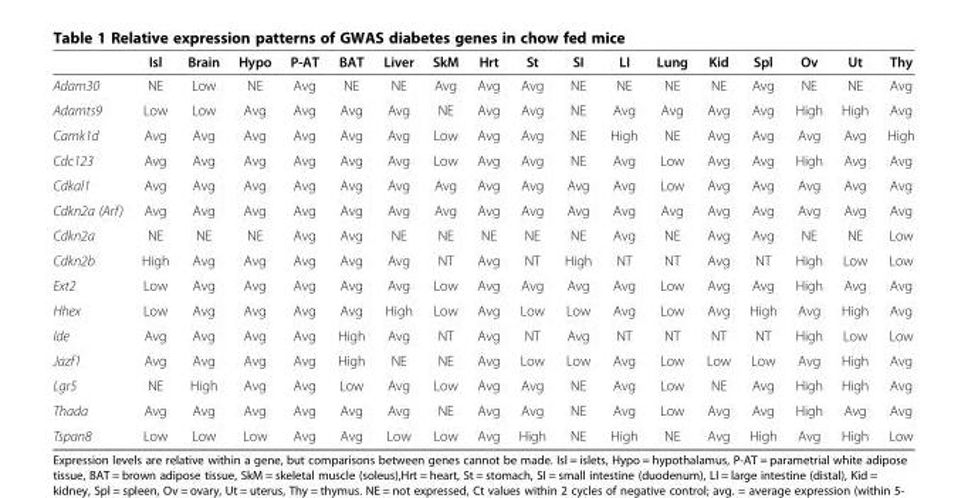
<table><thead><tr><td></td><td>Isl</td><td>Brain</td><td>Hypo</td><td>P-AT</td><td>BAT</td><td>Liver</td><td>SkM</td><td>Hrt</td><td>St</td><td>SI</td><td>LI</td><td>Lung</td><td>Kid</td><td>Spl</td><td>Ov</td><td>Ut</td><td>Thy</td></tr></thead><tbody><tr><td>Adam30</td><td>NE</td><td>Low</td><td>NE</td><td>Avg</td><td>NE</td><td>NE</td><td>Avg</td><td>Avg</td><td>Avg</td><td>NE</td><td>NE</td><td>NE</td><td>NE</td><td>Avg</td><td>NE</td><td>NE</td><td>Avg</td></tr><tr><td>Adamts9</td><td>Low</td><td>Low</td><td>Avg</td><td>Avg</td><td>Avg</td><td>Avg</td><td>NE</td><td>Avg</td><td>Avg</td><td>NE</td><td>Avg</td><td>Avg</td><td>Avg</td><td>Avg</td><td>High</td><td>High</td><td>Avg</td></tr><tr><td>Camk1d</td><td>Avg</td><td>Avg</td><td>Avg</td><td>Avg</td><td>Avg</td><td>Avg</td><td>Low</td><td>Avg</td><td>Avg</td><td>NE</td><td>High</td><td>NE</td><td>Avg</td><td>Avg</td><td>Avg</td><td>Avg</td><td>High</td></tr><tr><td>Cdc123</td><td>Avg</td><td>Avg</td><td>Avg</td><td>Avg</td><td>Avg</td><td>Avg</td><td>Low</td><td>Avg</td><td>Avg</td><td>NE</td><td>Avg</td><td>Low</td><td>Avg</td><td>Avg</td><td>High</td><td>Avg</td><td>Avg</td></tr><tr><td>Cdkal1</td><td>Avg</td><td>Avg</td><td>Avg</td><td>Avg</td><td>Avg</td><td>Avg</td><td>Avg</td><td>Avg</td><td>Avg</td><td>Avg</td><td>Avg</td><td>Low</td><td>Avg</td><td>Avg</td><td>Avg</td><td>Avg</td><td>Avg</td></tr><tr><td>Cdkn2a (Arf)</td><td>Avg</td><td>Avg</td><td>Avg</td><td>Avg</td><td>Avg</td><td>Avg</td><td>Avg</td><td>Avg</td><td>Avg</td><td>Avg</td><td>Avg</td><td>Avg</td><td>Avg</td><td>Avg</td><td>Avg</td><td>Avg</td><td>Avg</td></tr><tr><td>Cdkn2a</td><td>NE</td><td>NE</td><td>NE</td><td>Avg</td><td>Avg</td><td>NE</td><td>NE</td><td>NE</td><td>NE</td><td>NE</td><td>Avg</td><td>NE</td><td>Avg</td><td>Avg</td><td>NE</td><td>NE</td><td>Low</td></tr><tr><td>Cdkn2b</td><td>High</td><td>Avg</td><td>Avg</td><td>Avg</td><td>Avg</td><td>Avg</td><td>NT</td><td>Avg</td><td>NT</td><td>High</td><td>NT</td><td>NT</td><td>Avg</td><td>NT</td><td>High</td><td>Low</td><td>Low</td></tr><tr><td>Ext2</td><td>Low</td><td>Avg</td><td>Avg</td><td>Avg</td><td>Avg</td><td>Avg</td><td>Low</td><td>Avg</td><td>Avg</td><td>Avg</td><td>Avg</td><td>Low</td><td>Avg</td><td>Avg</td><td>High</td><td>Avg</td><td>Avg</td></tr><tr><td>Hhex</td><td>Low</td><td>Avg</td><td>Avg</td><td>Avg</td><td>Avg</td><td>High</td><td>Low</td><td>Avg</td><td>Low</td><td>Low</td><td>Avg</td><td>Low</td><td>Avg</td><td>High</td><td>Avg</td><td>High</td><td>Avg</td></tr><tr><td>Ide</td><td>Avg</td><td>Avg</td><td>Avg</td><td>Avg</td><td>High</td><td>Avg</td><td>NT</td><td>Avg</td><td>NT</td><td>Avg</td><td>NT</td><td>NT</td><td>NT</td><td>NT</td><td>High</td><td>Low</td><td>Low</td></tr><tr><td>Jazf1</td><td>Avg</td><td>Avg</td><td>Avg</td><td>Avg</td><td>High</td><td>NE</td><td>NE</td><td>Avg</td><td>Low</td><td>Low</td><td>Avg</td><td>Low</td><td>Low</td><td>Low</td><td>Avg</td><td>High</td><td>Avg</td></tr><tr><td>Lgr5</td><td>NE</td><td>High</td><td>Avg</td><td>Avg</td><td>Low</td><td>Avg</td><td>Low</td><td>Avg</td><td>Avg</td><td>NE</td><td>Avg</td><td>Low</td><td>NE</td><td>Avg</td><td>High</td><td>High</td><td>Avg</td></tr><tr><td>Thada</td><td>Avg</td><td>Avg</td><td>Avg</td><td>Avg</td><td>Avg</td><td>Avg</td><td>NE</td><td>Avg</td><td>Avg</td><td>NE</td><td>Avg</td><td>Low</td><td>Avg</td><td>Avg</td><td>High</td><td>Avg</td><td>Avg</td></tr><tr><td>Tspan8</td><td>Low</td><td>Low</td><td>Low</td><td>Avg</td><td>Avg</td><td>Low</td><td>Low</td><td>Avg</td><td>High</td><td>NE</td><td>High</td><td>NE</td><td>Avg</td><td>High</td><td>Avg</td><td>High</td><td>Low</td></tr></tbody></table>